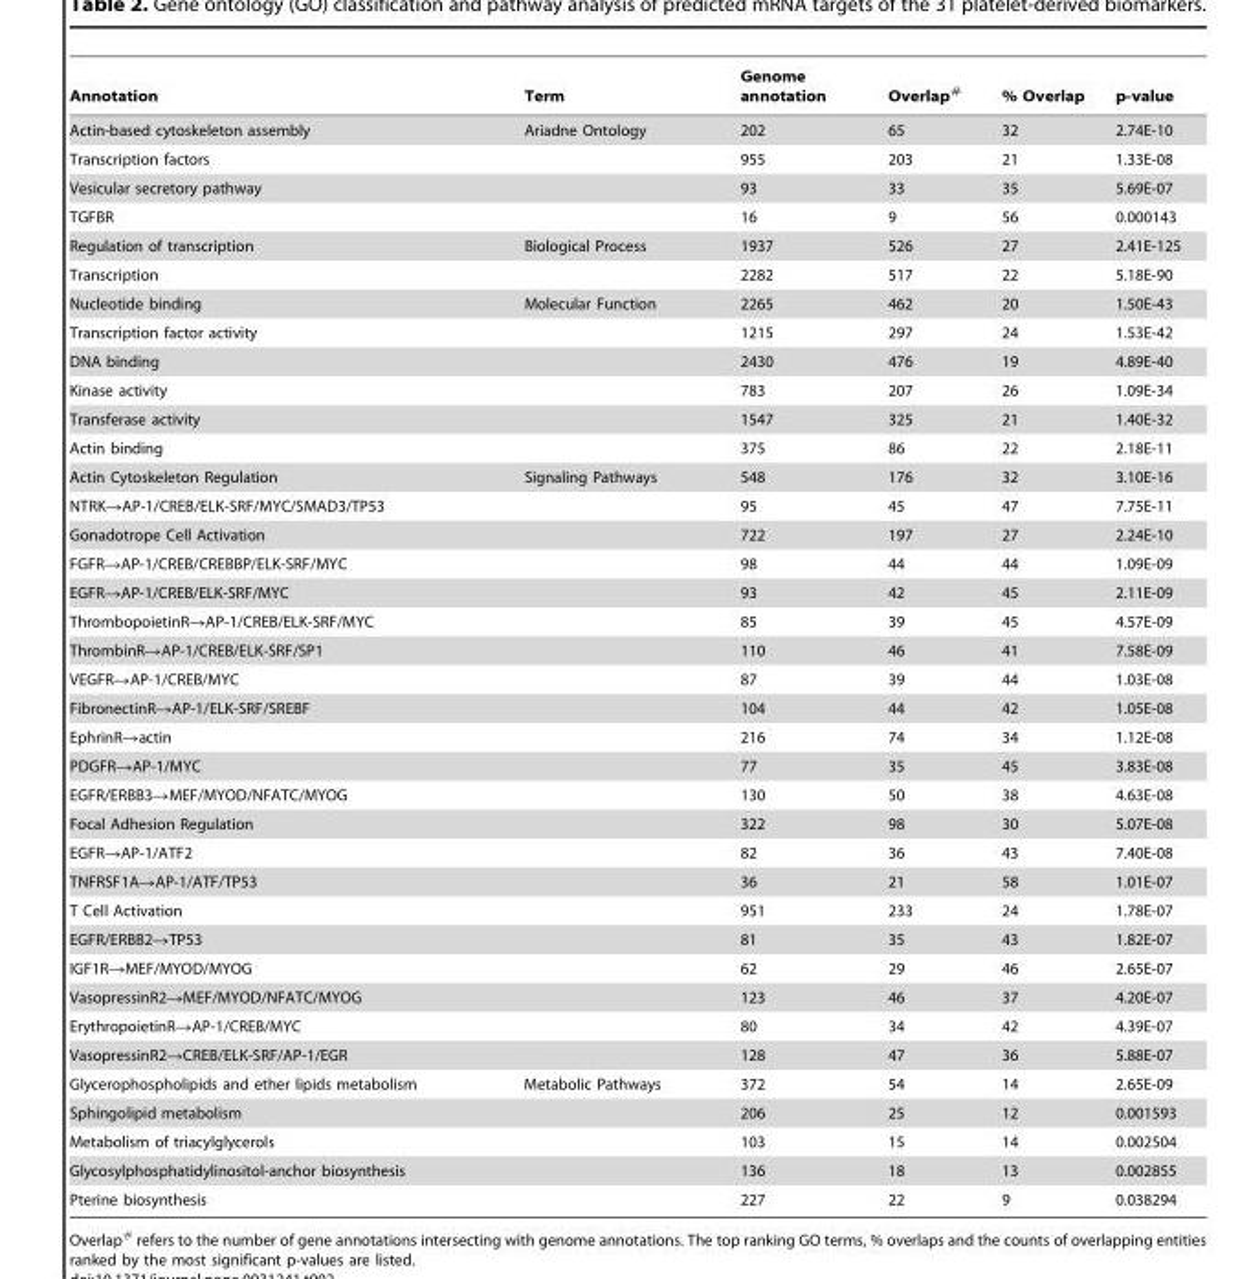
<table><thead><tr><td>Annotation</td><td>Term</td><td>Genome annotation</td><td>Overlap<sup>#</sup></td><td>% Overlap</td><td>p-value</td></tr></thead><tbody><tr><td>Actin-based cytoskeleton assembly</td><td>Ariadne Ontology</td><td>202</td><td>65</td><td>32</td><td>2.74E-10</td></tr><tr><td>Transcription factors</td><td></td><td>955</td><td>203</td><td>21</td><td>1.33E-08</td></tr><tr><td>Vesicular secretory pathway</td><td></td><td>93</td><td>33</td><td>35</td><td>5.69E-07</td></tr><tr><td>TGFBR</td><td></td><td>16</td><td>9</td><td>56</td><td>0.000143</td></tr><tr><td>Regulation of transcription</td><td>Biological Process</td><td>1937</td><td>526</td><td>27</td><td>2.41E-125</td></tr><tr><td>Transcription</td><td></td><td>2282</td><td>517</td><td>22</td><td>5.18E-90</td></tr><tr><td>Nucleotide binding</td><td>Molecular Function</td><td>2265</td><td>462</td><td>20</td><td>1.50E-43</td></tr><tr><td>Transcription factor activity</td><td></td><td>1215</td><td>297</td><td>24</td><td>1.53E-42</td></tr><tr><td>DNA binding</td><td></td><td>2430</td><td>476</td><td>19</td><td>4.89E-40</td></tr><tr><td>Kinase activity</td><td></td><td>783</td><td>207</td><td>26</td><td>1.09E-34</td></tr><tr><td>Transferase activity</td><td></td><td>1547</td><td>325</td><td>21</td><td>1.40E-32</td></tr><tr><td>Actin binding</td><td></td><td>375</td><td>86</td><td>22</td><td>2.18E-11</td></tr><tr><td>Actin Cytoskeleton Regulation</td><td>Signaling Pathways</td><td>548</td><td>176</td><td>32</td><td>3.10E-16</td></tr><tr><td>NTRK→AP-1/CREB/ELK-SRF/MYC/SMAD3/TP53</td><td></td><td>95</td><td>45</td><td>47</td><td>7.75E-11</td></tr><tr><td>Gonadotrope Cell Activation</td><td></td><td>722</td><td>197</td><td>27</td><td>2.24E-10</td></tr><tr><td>FGFR→AP-1/CREB/CREBBP/ELK-SRF/MYC</td><td></td><td>98</td><td>44</td><td>44</td><td>1.09E-09</td></tr><tr><td>EGFR→AP-1/CREB/ELK-SRF/MYC</td><td></td><td>93</td><td>42</td><td>45</td><td>2.11E-09</td></tr><tr><td>ThrombopoietinR→AP-1/CREB/ELK-SRF/MYC</td><td></td><td>85</td><td>39</td><td>45</td><td>4.57E-09</td></tr><tr><td>ThrombinR→AP-1/CREB/ELK-SRF/SP1</td><td></td><td>110</td><td>46</td><td>41</td><td>7.58E-09</td></tr><tr><td>VEGFR→AP-1/CREB/MYC</td><td></td><td>87</td><td>39</td><td>44</td><td>1.03E-08</td></tr><tr><td>FibronectinR→AP-1/ELK-SRF/SREBF</td><td></td><td>104</td><td>44</td><td>42</td><td>1.05E-08</td></tr><tr><td>EphrinR→actin</td><td></td><td>216</td><td>74</td><td>34</td><td>1.12E-08</td></tr><tr><td>PDGFR→AP-1/MYC</td><td></td><td>77</td><td>35</td><td>45</td><td>3.83E-08</td></tr><tr><td>EGFR/ERBB3→MEF/MYOD/NFATC/MYOG</td><td></td><td>130</td><td>50</td><td>38</td><td>4.63E-08</td></tr><tr><td>Focal Adhesion Regulation</td><td></td><td>322</td><td>98</td><td>30</td><td>5.07E-08</td></tr><tr><td>EGFR→AP-1/ATF2</td><td></td><td>82</td><td>36</td><td>43</td><td>7.40E-08</td></tr><tr><td>TNFRSF1A→AP-1/ATF/TP53</td><td></td><td>36</td><td>21</td><td>58</td><td>1.01E-07</td></tr><tr><td>T Cell Activation</td><td></td><td>951</td><td>233</td><td>24</td><td>1.78E-07</td></tr><tr><td>EGFR/ERBB2→TP53</td><td></td><td>81</td><td>35</td><td>43</td><td>1.82E-07</td></tr><tr><td>IGF1R→MEF/MYOD/MYOG</td><td></td><td>62</td><td>29</td><td>46</td><td>2.65E-07</td></tr><tr><td>VasopressinR2→MEF/MYOD/NFATC/MYOG</td><td></td><td>123</td><td>46</td><td>37</td><td>4.20E-07</td></tr><tr><td>ErythropoietinR→AP-1/CREB/MYC</td><td></td><td>80</td><td>34</td><td>42</td><td>4.39E-07</td></tr><tr><td>VasopressinR2→CREB/ELK-SRF/AP-1/EGR</td><td></td><td>128</td><td>47</td><td>36</td><td>5.88E-07</td></tr><tr><td>Glycerophospholipids and ether lipids metabolism</td><td>Metabolic Pathways</td><td>372</td><td>54</td><td>14</td><td>2.65E-09</td></tr><tr><td>Sphingolipid metabolism</td><td></td><td>206</td><td>25</td><td>12</td><td>0.001593</td></tr><tr><td>Metabolism of triacylglycerols</td><td></td><td>103</td><td>15</td><td>14</td><td>0.002504</td></tr><tr><td>Glycosylphosphatidylinositol-anchor biosynthesis</td><td></td><td>136</td><td>18</td><td>13</td><td>0.002855</td></tr><tr><td>Pterine biosynthesis</td><td></td><td>227</td><td>22</td><td>9</td><td>0.038294</td></tr></tbody></table>